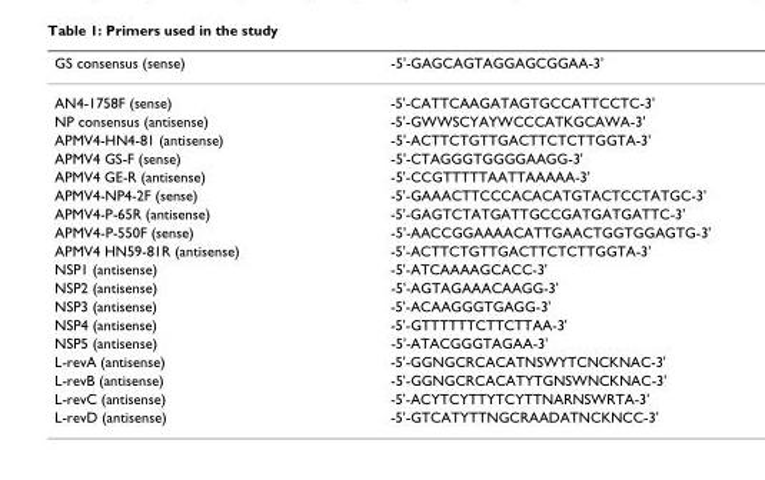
<table><thead><tr><td>GS consensus (sense)</td><td>-5&#x27;-GAGCAGTAGGAGCGGAA-3&#x27;</td></tr></thead><tbody><tr><td>AN4-1758F (sense)</td><td>-5&#x27;-CATTCAAGATAGTGCCATTCCTC-3&#x27;</td></tr><tr><td>NP consensus (antisense)</td><td>-5&#x27;-GWWSCYAYWCCCATKGCAWA-3&#x27;</td></tr><tr><td>APMV4-HN4-81 (antisense)</td><td>-5&#x27;-ACTTCTGTTGACTTCTCTTGGTA-3&#x27;</td></tr><tr><td>APMV4 GS-F (sense)</td><td>-5&#x27;-CTAGGGTGGGGAAGG-3&#x27;</td></tr><tr><td>APMV4 GE-R (antisense)</td><td>-5&#x27;-CCGTTTTTAATTAAAAA-3&#x27;</td></tr><tr><td>APMV4-NP4-2F (sense)</td><td>-5&#x27;-GAAACTTCCCACACATGTACTCCTATGC-3&#x27;</td></tr><tr><td>APMV4-P-65R (antisense)</td><td>-5&#x27;-GAGTCTATGATTGCCGATGATGATTC-3&#x27;</td></tr><tr><td>APMV4-P-550F (sense)</td><td>-5&#x27;-AACCGGAAAACATTGAACTGGTGGAGTG-3&#x27;</td></tr><tr><td>APMV4 HN59-81R (antisense)</td><td>-5&#x27;-ACTTCTGTTGACTTCTCTTGGTA-3&#x27;</td></tr><tr><td>NSP1 (antisense)</td><td>-5&#x27;-ATCAAAAGCACC-3&#x27;</td></tr><tr><td>NSP2 (antisense)</td><td>-5&#x27;-AGTAGAAACAAGG-3&#x27;</td></tr><tr><td>NSP3 (antisense)</td><td>-5&#x27;-ACAAGGGTGAGG-3&#x27;</td></tr><tr><td>NSP4 (antisense)</td><td>-5&#x27;-GTTTTTTCTTCTTAA-3&#x27;</td></tr><tr><td>NSP5 (antisense)</td><td>-5&#x27;-ATACGGGTAGAA-3&#x27;</td></tr><tr><td>L-revA (antisense)</td><td>-5&#x27;-GGNGCRCACATNSWYTCNCKNAC-3&#x27;</td></tr><tr><td>L-revB (antisense)</td><td>-5&#x27;-GGNGCRCACATYTGNSWNCKNAC-3&#x27;</td></tr><tr><td>L-revC (antisense)</td><td>-5&#x27;-ACYTCYTTYTCYTTNARNSWRTA-3&#x27;</td></tr><tr><td>L-revD (antisense)</td><td>-5&#x27;-GTCATYTTNGCRAADATNCKNCC-3&#x27;</td></tr></tbody></table>